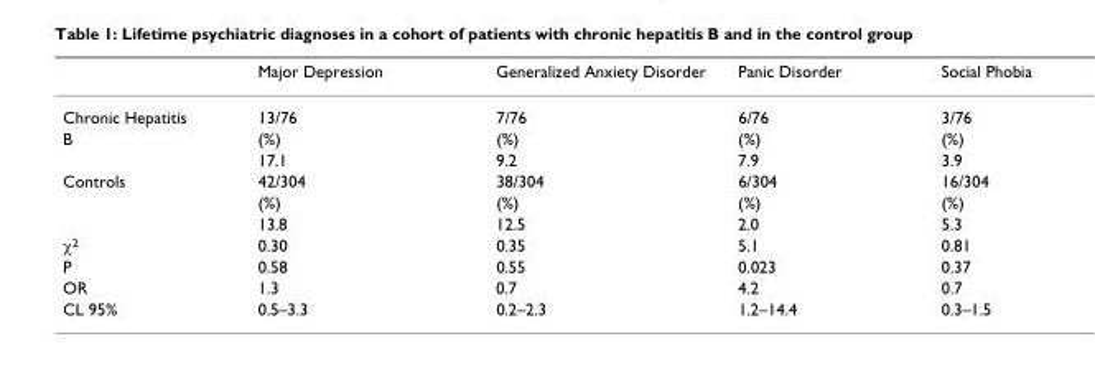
<table><thead><tr><td></td><td>Major Depression</td><td>Generalized Anxiety Disorder</td><td>Panic Disorder</td><td>Social Phobia</td></tr></thead><tbody><tr><td>Chronic Hepatitis</td><td>13/76</td><td>7/76</td><td>6/76</td><td>3/76</td></tr><tr><td rowspan="2">B</td><td>(%)</td><td>(%)</td><td>(%)</td><td>(%)</td></tr><tr><td>17.1</td><td>9.2</td><td>7.9</td><td>3.9</td></tr><tr><td rowspan="3">Controls</td><td>42/304</td><td>38/304</td><td>6/304</td><td>16/304</td></tr><tr><td>(%)</td><td>(%)</td><td>(%)</td><td>(%)</td></tr><tr><td>13.8</td><td>12.5</td><td>2.0</td><td>5.3</td></tr><tr><td>χ<sup>2</sup></td><td>0.30</td><td>0.35</td><td>5.1</td><td>0.81</td></tr><tr><td>P</td><td>0.58</td><td>0.55</td><td>0.023</td><td>0.37</td></tr><tr><td>OR</td><td>1.3</td><td>0.7</td><td>4.2</td><td>0.7</td></tr><tr><td>CL 95%</td><td>0.5–3.3</td><td>0.2–2.3</td><td>1.2–14.4</td><td>0.3–1.5</td></tr></tbody></table>